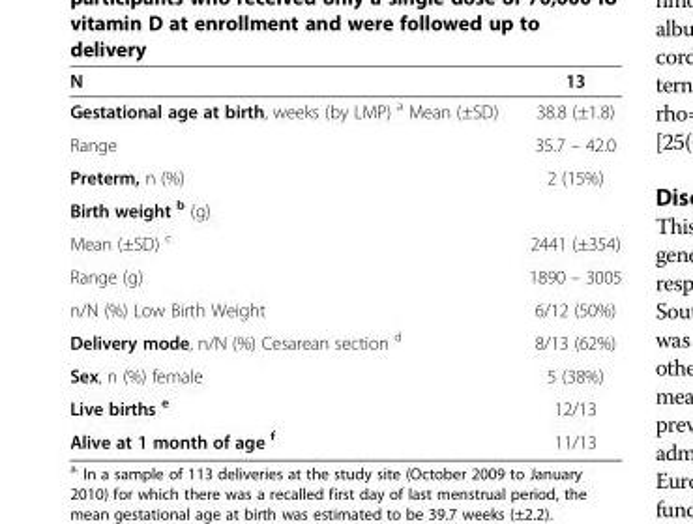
<table><thead><tr><td>N</td><td>13</td></tr></thead><tbody><tr><td>Gestational age at birth, weeks (by LMP) <sup>a</sup> Mean (±SD)</td><td>38.8 (±1.8)</td></tr><tr><td>Range</td><td>35.7 – 42.0</td></tr><tr><td>Preterm, n (%)</td><td>2 (15%)</td></tr><tr><td colspan="2">Birth weight <sup>b</sup> (g)</td></tr><tr><td>Mean (±SD) <sup>c</sup></td><td>2441 (±354)</td></tr><tr><td>Range (g)</td><td>1890 – 3005</td></tr><tr><td>n/N (%) Low Birth Weight</td><td>6/12 (50%)</td></tr><tr><td>Delivery mode, n/N (%) Cesarean section <sup>d</sup></td><td>8/13 (62%)</td></tr><tr><td>Sex, n (%) female</td><td>5 (38%)</td></tr><tr><td>Live births <sup>e</sup></td><td>12/13</td></tr><tr><td>Alive at 1 month of age <sup>f</sup></td><td>11/13</td></tr></tbody></table>